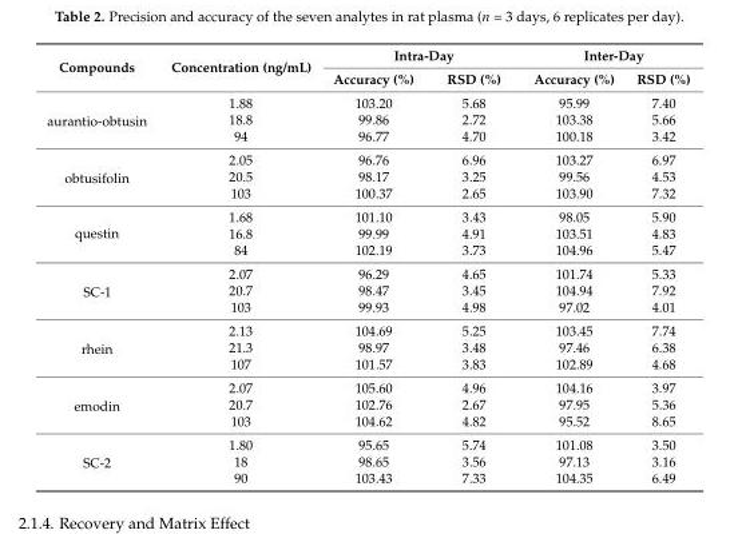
<table><thead><tr><td rowspan="2">Compounds</td><td rowspan="2">Concentration (ng/mL)</td><td colspan="2">Intra-Day</td><td colspan="2">Inter-Day</td></tr><tr><td>Accuracy (%)</td><td>RSD (%)</td><td>Accuracy (%)</td><td>RSD (%)</td></tr></thead><tbody><tr><td rowspan="3">aurantio-obtusin</td><td>1.88</td><td>103.20</td><td>5.68</td><td>95.99</td><td>7.40</td></tr><tr><td>18.8</td><td>99.86</td><td>2.72</td><td>103.38</td><td>5.66</td></tr><tr><td>94</td><td>96.77</td><td>4.70</td><td>100.18</td><td>3.42</td></tr><tr><td rowspan="3">obtusifolin</td><td>2.05</td><td>96.76</td><td>6.96</td><td>103.27</td><td>6.97</td></tr><tr><td>20.5</td><td>98.17</td><td>3.25</td><td>99.56</td><td>4.53</td></tr><tr><td>103</td><td>100.37</td><td>2.65</td><td>103.90</td><td>7.32</td></tr><tr><td rowspan="3">questin</td><td>1.68</td><td>101.10</td><td>3.43</td><td>98.05</td><td>5.90</td></tr><tr><td>16.8</td><td>99.99</td><td>4.91</td><td>103.51</td><td>4.83</td></tr><tr><td>84</td><td>102.19</td><td>3.73</td><td>104.96</td><td>5.47</td></tr><tr><td rowspan="3">SC-1</td><td>2.07</td><td>96.29</td><td>4.65</td><td>101.74</td><td>5.33</td></tr><tr><td>20.7</td><td>98.47</td><td>3.45</td><td>104.94</td><td>7.92</td></tr><tr><td>103</td><td>99.93</td><td>4.98</td><td>97.02</td><td>4.01</td></tr><tr><td rowspan="3">rhein</td><td>2.13</td><td>104.69</td><td>5.25</td><td>103.45</td><td>7.74</td></tr><tr><td>21.3</td><td>98.97</td><td>3.48</td><td>97.46</td><td>6.38</td></tr><tr><td>107</td><td>101.57</td><td>3.83</td><td>102.89</td><td>4.68</td></tr><tr><td rowspan="3">emodin</td><td>2.07</td><td>105.60</td><td>4.96</td><td>104.16</td><td>3.97</td></tr><tr><td>20.7</td><td>102.76</td><td>2.67</td><td>97.95</td><td>5.36</td></tr><tr><td>103</td><td>104.62</td><td>4.82</td><td>95.52</td><td>8.65</td></tr><tr><td rowspan="3">SC-2</td><td>1.80</td><td>95.65</td><td>5.74</td><td>101.08</td><td>3.50</td></tr><tr><td>18</td><td>98.65</td><td>3.56</td><td>97.13</td><td>3.16</td></tr><tr><td>90</td><td>103.43</td><td>7.33</td><td>104.35</td><td>6.49</td></tr></tbody></table>